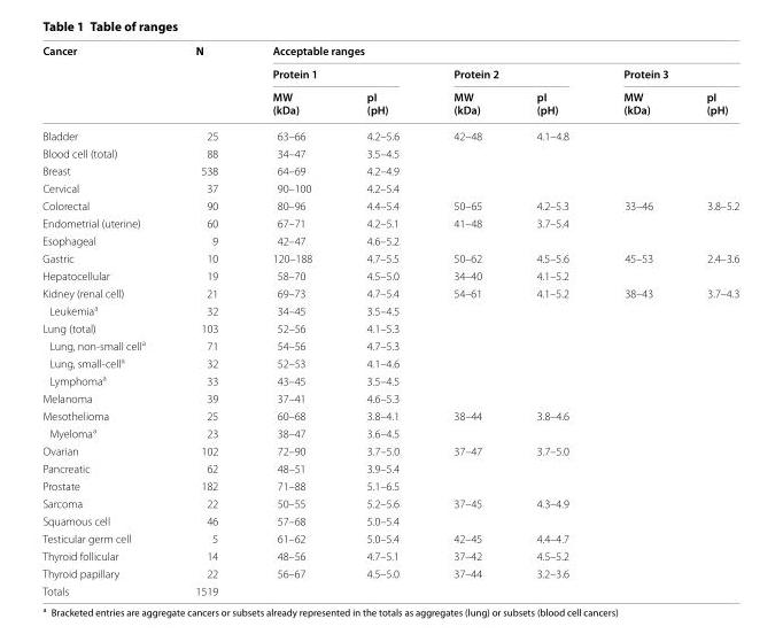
<table><thead><tr><td rowspan="3">Cancer</td><td rowspan="3">N</td><td colspan="6">Acceptable ranges</td></tr><tr><td colspan="2">Protein 1</td><td colspan="2">Protein 2</td><td colspan="2">Protein 3</td></tr><tr><td>MW (kDa)</td><td>pI (pH)</td><td>MW (kDa)</td><td>pI (pH)</td><td>MW (kDa)</td><td>pI (pH)</td></tr></thead><tbody><tr><td>Bladder</td><td>25</td><td>63–66</td><td>4.2–5.6</td><td>42–48</td><td>4.1–4.8</td><td></td><td></td></tr><tr><td>Blood cell (total)</td><td>88</td><td>34–47</td><td>3.5–4.5</td><td></td><td></td><td></td><td></td></tr><tr><td>Breast</td><td>538</td><td>64–69</td><td>4.2–4.9</td><td></td><td></td><td></td><td></td></tr><tr><td>Cervical</td><td>37</td><td>90–100</td><td>4.2–5.4</td><td></td><td></td><td></td><td></td></tr><tr><td>Colorectal</td><td>90</td><td>80–96</td><td>4.4–5.4</td><td>50–65</td><td>4.2–5.3</td><td>33–46</td><td>3.8–5.2</td></tr><tr><td>Endometrial (uterine)</td><td>60</td><td>67–71</td><td>4.2–5.1</td><td>41–48</td><td>3.7–5.4</td><td></td><td></td></tr><tr><td>Esophageal</td><td>9</td><td>42–47</td><td>4.6–5.2</td><td></td><td></td><td></td><td></td></tr><tr><td>Gastric</td><td>10</td><td>120–188</td><td>4.7–5.5</td><td>50–62</td><td>4.5–5.6</td><td>45–53</td><td>2.4–3.6</td></tr><tr><td>Hepatocellular</td><td>19</td><td>58–70</td><td>4.5–5.0</td><td>34–40</td><td>4.1–5.2</td><td></td><td></td></tr><tr><td>Kidney (renal cell)</td><td>21</td><td>69–73</td><td>4.7–5.4</td><td>54–61</td><td>4.1–5.2</td><td>38–43</td><td>3.7–4.3</td></tr><tr><td>Leukemia<sup>a</sup></td><td>32</td><td>34–45</td><td>3.5–4.5</td><td></td><td></td><td></td><td></td></tr><tr><td>Lung (total)</td><td>103</td><td>52–56</td><td>4.1–5.3</td><td></td><td></td><td></td><td></td></tr><tr><td>Lung, non-small cell<sup>a</sup></td><td>71</td><td>54–56</td><td>4.7–5.3</td><td></td><td></td><td></td><td></td></tr><tr><td>Lung, small-cell<sup>a</sup></td><td>32</td><td>52–53</td><td>4.1–4.6</td><td></td><td></td><td></td><td></td></tr><tr><td>Lymphoma<sup>a</sup></td><td>33</td><td>43–45</td><td>3.5–4.5</td><td></td><td></td><td></td><td></td></tr><tr><td>Melanoma</td><td>39</td><td>37–41</td><td>4.6–5.3</td><td></td><td></td><td></td><td></td></tr><tr><td>Mesothelioma</td><td>25</td><td>60–68</td><td>3.8–4.1</td><td>38–44</td><td>3.8–4.6</td><td></td><td></td></tr><tr><td>Myeloma<sup>a</sup></td><td>23</td><td>38–47</td><td>3.6–4.5</td><td></td><td></td><td></td><td></td></tr><tr><td>Ovarian</td><td>102</td><td>72–90</td><td>3.7–5.0</td><td>37–47</td><td>3.7–5.0</td><td></td><td></td></tr><tr><td>Pancreatic</td><td>62</td><td>48–51</td><td>3.9–5.4</td><td></td><td></td><td></td><td></td></tr><tr><td>Prostate</td><td>182</td><td>71–88</td><td>5.1–6.5</td><td></td><td></td><td></td><td></td></tr><tr><td>Sarcoma</td><td>22</td><td>50–55</td><td>5.2–5.6</td><td>37–45</td><td>4.3–4.9</td><td></td><td></td></tr><tr><td>Squamous cell</td><td>46</td><td>57–68</td><td>5.0–5.4</td><td></td><td></td><td></td><td></td></tr><tr><td>Testicular germ cell</td><td>5</td><td>61–62</td><td>5.0–5.4</td><td>42–45</td><td>4.4–4.7</td><td></td><td></td></tr><tr><td>Thyroid follicular</td><td>14</td><td>48–56</td><td>4.7–5.1</td><td>37–42</td><td>4.5–5.2</td><td></td><td></td></tr><tr><td>Thyroid papillary</td><td>22</td><td>56–67</td><td>4.5–5.0</td><td>37–44</td><td>3.2–3.6</td><td></td><td></td></tr><tr><td>Totals</td><td>1519</td><td></td><td></td><td></td><td></td><td></td><td></td></tr></tbody></table>